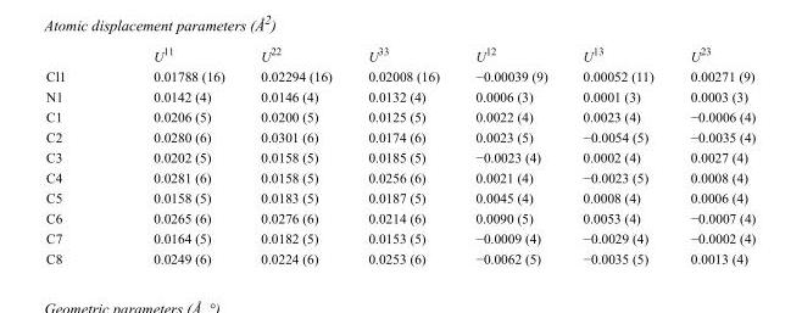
<table><thead><tr><td></td><td>U<sup>11</sup></td><td>U<sup>22</sup></td><td>U<sup>33</sup></td><td>U<sup>12</sup></td><td>U<sup>13</sup></td><td>U<sup>23</sup></td></tr></thead><tbody><tr><td>Cl1</td><td>0.01788 (16)</td><td>0.02294 (16)</td><td>0.02008 (16)</td><td>−0.00039 (9)</td><td>0.00052 (11)</td><td>0.00271 (9)</td></tr><tr><td>N1</td><td>0.0142 (4)</td><td>0.0146 (4)</td><td>0.0132 (4)</td><td>0.0006 (3)</td><td>0.0001 (3)</td><td>0.0003 (3)</td></tr><tr><td>C1</td><td>0.0206 (5)</td><td>0.0200 (5)</td><td>0.0125 (5)</td><td>0.0022 (4)</td><td>0.0023 (4)</td><td>−0.0006 (4)</td></tr><tr><td>C2</td><td>0.0280 (6)</td><td>0.0301 (6)</td><td>0.0174 (6)</td><td>0.0023 (5)</td><td>−0.0054 (5)</td><td>−0.0035 (4)</td></tr><tr><td>C3</td><td>0.0202 (5)</td><td>0.0158 (5)</td><td>0.0185 (5)</td><td>−0.0023 (4)</td><td>0.0002 (4)</td><td>0.0027 (4)</td></tr><tr><td>C4</td><td>0.0281 (6)</td><td>0.0158 (5)</td><td>0.0256 (6)</td><td>0.0021 (4)</td><td>−0.0023 (5)</td><td>0.0008 (4)</td></tr><tr><td>C5</td><td>0.0158 (5)</td><td>0.0183 (5)</td><td>0.0187 (5)</td><td>0.0045 (4)</td><td>0.0008 (4)</td><td>0.0006 (4)</td></tr><tr><td>C6</td><td>0.0265 (6)</td><td>0.0276 (6)</td><td>0.0214 (6)</td><td>0.0090 (5)</td><td>0.0053 (4)</td><td>−0.0007 (4)</td></tr><tr><td>C7</td><td>0.0164 (5)</td><td>0.0182 (5)</td><td>0.0153 (5)</td><td>−0.0009 (4)</td><td>−0.0029 (4)</td><td>−0.0002 (4)</td></tr><tr><td>C8</td><td>0.0249 (6)</td><td>0.0224 (6)</td><td>0.0253 (6)</td><td>−0.0062 (5)</td><td>−0.0035 (5)</td><td>0.0013 (4)</td></tr></tbody></table>